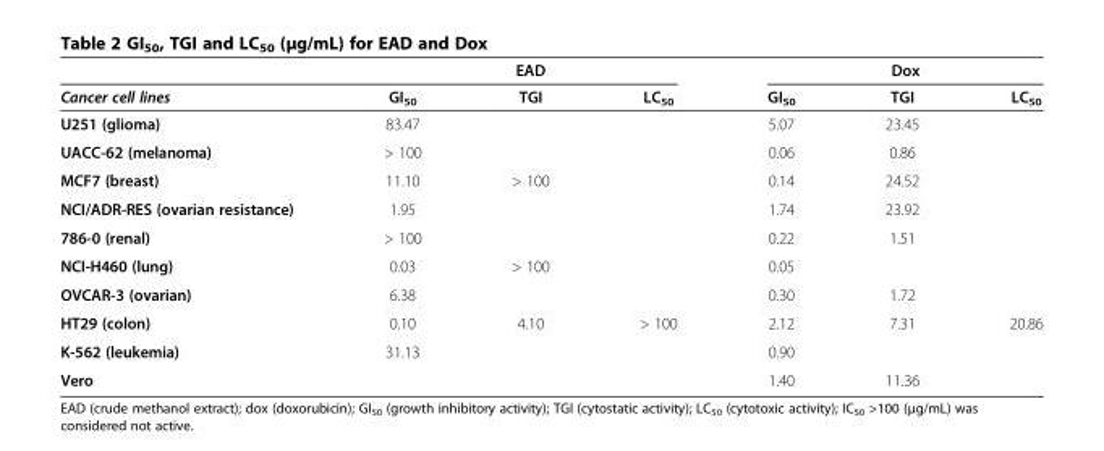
<table><thead><tr><td rowspan="2">Cancer cell lines</td><td colspan="3">EAD</td><td colspan="3">Dox</td></tr><tr><td>GI<sub>50</sub></td><td>TGI</td><td>LC<sub>50</sub></td><td>GI<sub>50</sub></td><td>TGI</td><td>LC<sub>50</sub></td></tr></thead><tbody><tr><td>U251 (glioma)</td><td>83.47</td><td></td><td></td><td>5.07</td><td>23.45</td><td></td></tr><tr><td>UACC-62 (melanoma)</td><td>&gt; 100</td><td></td><td></td><td>0.06</td><td>0.86</td><td></td></tr><tr><td>MCF7 (breast)</td><td>11.10</td><td>&gt; 100</td><td></td><td>0.14</td><td>24.52</td><td></td></tr><tr><td>NCI/ADR-RES (ovarian resistance)</td><td>1.95</td><td></td><td></td><td>1.74</td><td>23.92</td><td></td></tr><tr><td>786-0 (renal)</td><td>&gt; 100</td><td></td><td></td><td>0.22</td><td>1.51</td><td></td></tr><tr><td>NCI-H460 (lung)</td><td>0.03</td><td>&gt; 100</td><td></td><td>0.05</td><td></td><td></td></tr><tr><td>OVCAR-3 (ovarian)</td><td>6.38</td><td></td><td></td><td>0.30</td><td>1.72</td><td></td></tr><tr><td>HT29 (colon)</td><td>0.10</td><td>4.10</td><td>&gt; 100</td><td>2.12</td><td>7.31</td><td>20.86</td></tr><tr><td>K-562 (leukemia)</td><td>31.13</td><td></td><td></td><td>0.90</td><td></td><td></td></tr><tr><td>Vero</td><td></td><td></td><td></td><td>1.40</td><td>11.36</td><td></td></tr></tbody></table>